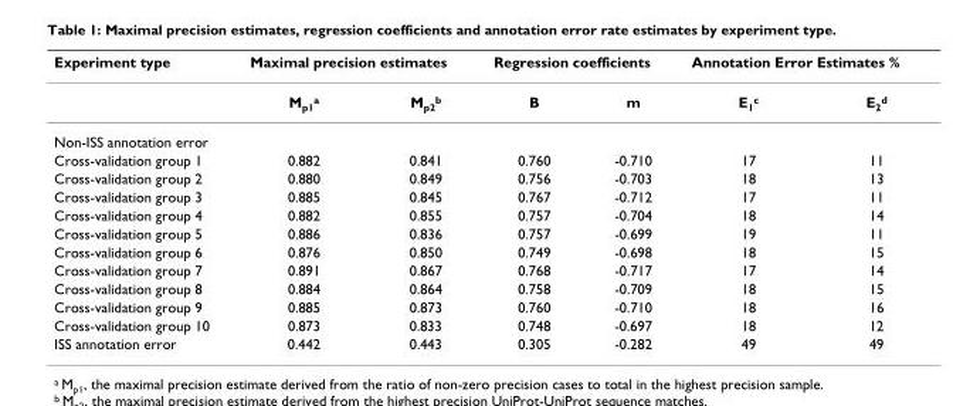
<table><thead><tr><td rowspan="2">Experiment type</td><td colspan="2">Maximal precision estimates</td><td colspan="2">Regression coefficients</td><td colspan="2">Annotation Error Estimates %</td></tr><tr><td>M<sub>p1</sub><sup>a</sup></td><td>M<sub>p2</sub><sup>b</sup></td><td>B</td><td>m</td><td>E<sub>1</sub><sup>c</sup></td><td>E<sub>2</sub><sup>d</sup></td></tr></thead><tbody><tr><td colspan="7">Non-ISS annotation error</td></tr><tr><td>Cross-validation group 1</td><td>0.882</td><td>0.841</td><td>0.760</td><td>-0.710</td><td>17</td><td>11</td></tr><tr><td>Cross-validation group 2</td><td>0.880</td><td>0.849</td><td>0.756</td><td>-0.703</td><td>18</td><td>13</td></tr><tr><td>Cross-validation group 3</td><td>0.885</td><td>0.845</td><td>0.767</td><td>-0.712</td><td>17</td><td>11</td></tr><tr><td>Cross-validation group 4</td><td>0.882</td><td>0.855</td><td>0.757</td><td>-0.704</td><td>18</td><td>14</td></tr><tr><td>Cross-validation group 5</td><td>0.886</td><td>0.836</td><td>0.757</td><td>-0.699</td><td>19</td><td>11</td></tr><tr><td>Cross-validation group 6</td><td>0.876</td><td>0.850</td><td>0.749</td><td>-0.698</td><td>18</td><td>15</td></tr><tr><td>Cross-validation group 7</td><td>0.891</td><td>0.867</td><td>0.768</td><td>-0.717</td><td>17</td><td>14</td></tr><tr><td>Cross-validation group 8</td><td>0.884</td><td>0.864</td><td>0.758</td><td>-0.709</td><td>18</td><td>15</td></tr><tr><td>Cross-validation group 9</td><td>0.885</td><td>0.873</td><td>0.760</td><td>-0.710</td><td>18</td><td>16</td></tr><tr><td>Cross-validation group 10</td><td>0.873</td><td>0.833</td><td>0.748</td><td>-0.697</td><td>18</td><td>12</td></tr><tr><td>ISS annotation error</td><td>0.442</td><td>0.443</td><td>0.305</td><td>-0.282</td><td>49</td><td>49</td></tr></tbody></table>